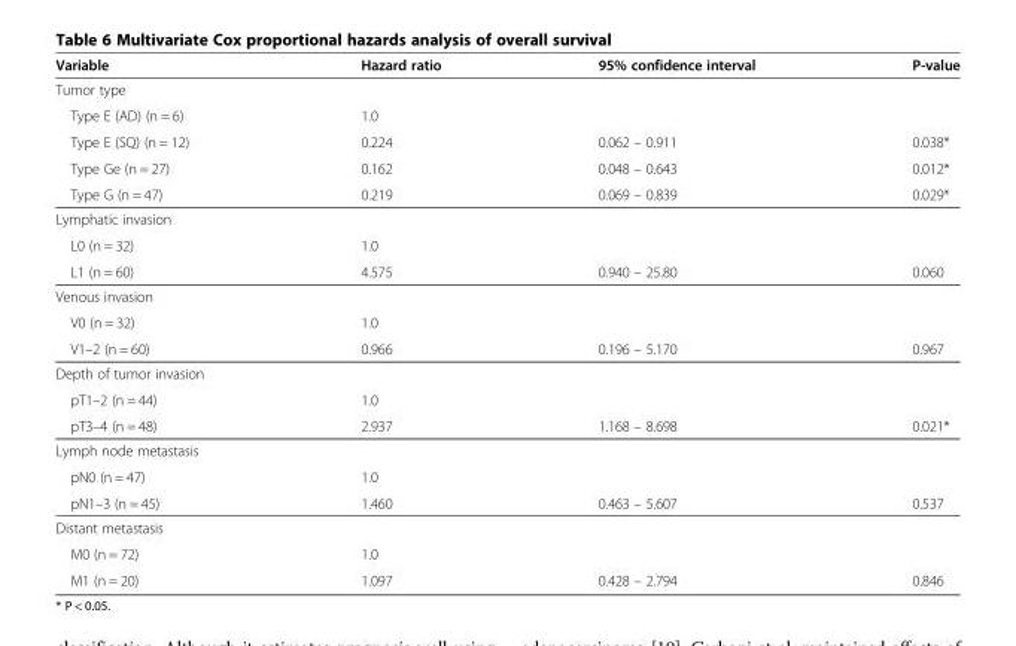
<table><thead><tr><td>Variable</td><td>Hazard ratio</td><td>95% confidence interval</td><td>P-value</td></tr></thead><tbody><tr><td colspan="4">Tumor type</td></tr><tr><td>Type E (AD) (n = 6)</td><td>1.0</td><td></td><td></td></tr><tr><td>Type E (SQ) (n = 12)</td><td>0.224</td><td>0.062 – 0.911</td><td>0.038*</td></tr><tr><td>Type Ge (n = 27)</td><td>0.162</td><td>0.048 – 0.643</td><td>0.012*</td></tr><tr><td>Type G (n = 47)</td><td>0.219</td><td>0.069 – 0.839</td><td>0.029*</td></tr><tr><td colspan="4">Lymphatic invasion</td></tr><tr><td>L0 (n = 32)</td><td>1.0</td><td></td><td></td></tr><tr><td>L1 (n = 60)</td><td>4.575</td><td>0.940 – 25.80</td><td>0.060</td></tr><tr><td colspan="4">Venous invasion</td></tr><tr><td>V0 (n = 32)</td><td>1.0</td><td></td><td></td></tr><tr><td>V1–2 (n = 60)</td><td>0.966</td><td>0.196 – 5.170</td><td>0.967</td></tr><tr><td colspan="4">Depth of tumor invasion</td></tr><tr><td>pT1–2 (n = 44)</td><td>1.0</td><td></td><td></td></tr><tr><td>pT3–4 (n = 48)</td><td>2.937</td><td>1.168 – 8.698</td><td>0.021*</td></tr><tr><td colspan="4">Lymph node metastasis</td></tr><tr><td>pN0 (n = 47)</td><td>1.0</td><td></td><td></td></tr><tr><td>pN1–3 (n = 45)</td><td>1.460</td><td>0.463 – 5.607</td><td>0.537</td></tr><tr><td colspan="4">Distant metastasis</td></tr><tr><td>M0 (n = 72)</td><td>1.0</td><td></td><td></td></tr><tr><td>M1 (n = 20)</td><td>1.097</td><td>0.428 – 2.794</td><td>0.846</td></tr></tbody></table>